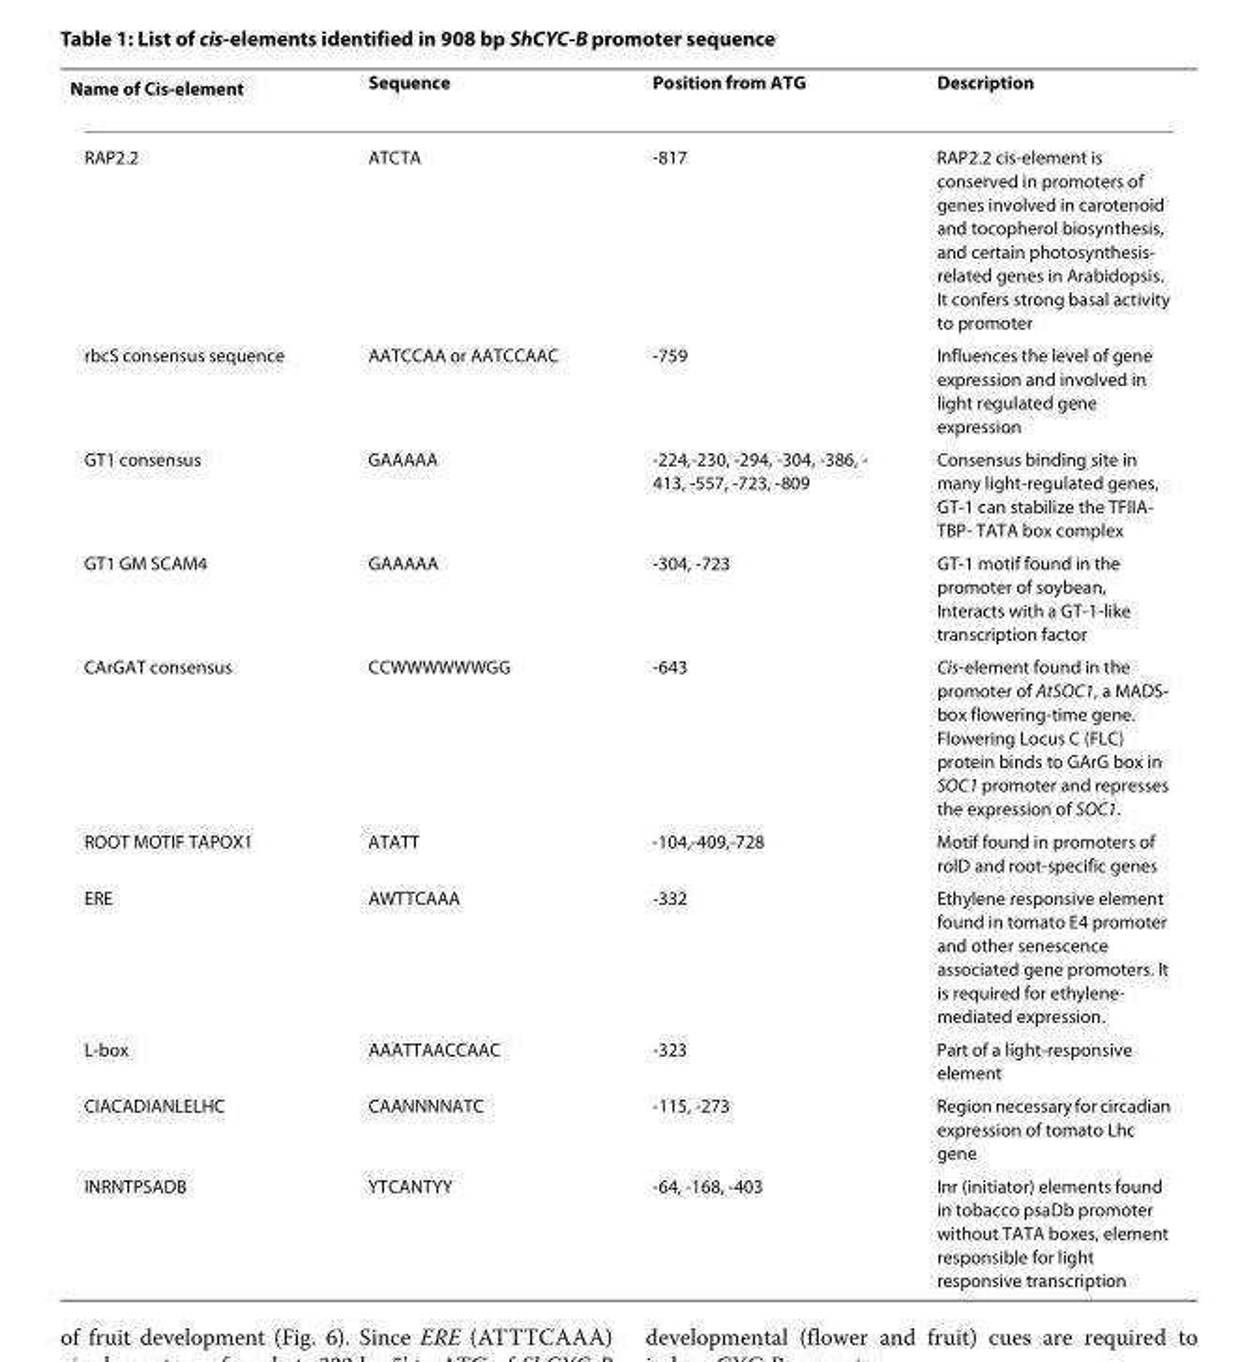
<table><thead><tr><td>Name of Cis-element</td><td>Sequence</td><td>Position from ATG</td><td>Description</td></tr></thead><tbody><tr><td>RAP2.2</td><td>ATCTA</td><td>-817</td><td>RAP2.2 cis-element is conserved in promoters of genes involved in carotenoid and tocopherol biosynthesis, and certain photosynthesis- related genes in Arabidopsis. It confers strong basal activity to promoter</td></tr><tr><td>rbcS consensus sequence</td><td>AATCCAA or AATCCAAC</td><td>-759</td><td>Influences the level of gene expression and involved in light regulated gene expression</td></tr><tr><td>GT1 consensus</td><td>GAAAAA</td><td>-224,-230, -294, -304, -386, - 413, -557, -723, -809</td><td>Consensus binding site in many light-regulated genes, GT-1 can stabilize the TFIIA- TBP- TATA box complex</td></tr><tr><td>GT1 GM SCAM4</td><td>GAAAAA</td><td>-304, -723</td><td>GT-1 motif found in the promoter of soybean, Interacts with a GT-1-like transcription factor</td></tr><tr><td>CArGAT consensus</td><td>CCWWWWWWGG</td><td>-643</td><td>Cis-element found in the promoter of AtSOC1, a MADS- box flowering-time gene. Flowering Locus C (FLC) protein binds to GArG box in SOC1 promoter and represses the expression of SOC1.</td></tr><tr><td>ROOT MOTIF TAPOX1</td><td>ATATT</td><td>-104,-409,-728</td><td>Motif found in promoters of rolD and root-specific genes</td></tr><tr><td>ERE</td><td>AWTTCAAA</td><td>-332</td><td>Ethylene responsive element found in tomato E4 promoter and other senescence associated gene promoters. It is required for ethylene- mediated expression.</td></tr><tr><td>L-box</td><td>AAATTAACCAAC</td><td>-323</td><td>Part of a light-responsive element</td></tr><tr><td>CIACADIANLELHC</td><td>CAANNNNATC</td><td>-115, -273</td><td>Region necessary for circadian expression of tomato Lhc gene</td></tr><tr><td>INRNTPSADB</td><td>YTCANTYY</td><td>-64, -168, -403</td><td>Inr (initiator) elements found in tobacco psaDb promoter without TATA boxes, element responsible for light responsive transcription</td></tr></tbody></table>